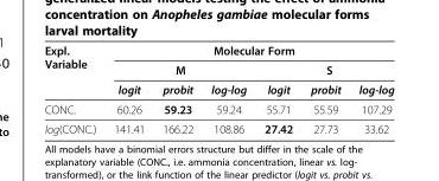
<table><thead><tr><td rowspan="3">Expl. Variable</td><td colspan="6">Molecular Form</td></tr><tr><td colspan="3">M</td><td colspan="3">S</td></tr><tr><td>logit</td><td>probit</td><td>log-log</td><td>logit</td><td>probit</td><td>log-log</td></tr></thead><tbody><tr><td>CONC.</td><td>60.26</td><td>59.23</td><td>59.24</td><td>55.71</td><td>55.59</td><td>107.29</td></tr><tr><td>log(CONC.)</td><td>141.41</td><td>166.22</td><td>108.86</td><td>27.42</td><td>27.73</td><td>33.62</td></tr></tbody></table>